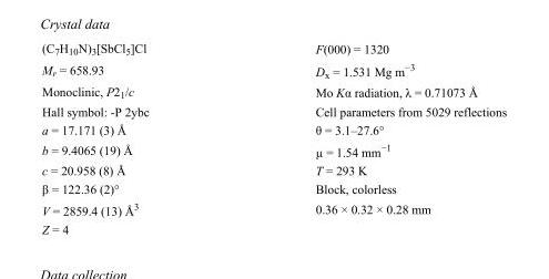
<table><tbody><tr><td>(C<sub>7</sub>H<sub>10</sub>N)<sub>3</sub>[SbCl<sub>5</sub>]Cl</td><td>F(000) = 1320</td></tr><tr><td>M<sub>r</sub> = 658.93</td><td>D<sub>x</sub> = 1.531 Mg m<sup>−3</sup></td></tr><tr><td>Monoclinic, P2<sub>1</sub>/c</td><td>Mo Kα radiation, λ = 0.71073 Å</td></tr><tr><td>Hall symbol: -P 2ybc</td><td>Cell parameters from 5029 reflections</td></tr><tr><td>a = 17.171 (3) Å</td><td>θ = 3.1–27.6°</td></tr><tr><td>b = 9.4065 (19) Å</td><td>µ = 1.54 mm<sup>−1</sup></td></tr><tr><td>c = 20.958 (8) Å</td><td>T = 293 K</td></tr><tr><td>β = 122.36 (2)°</td><td>Block, colorless</td></tr><tr><td>V = 2859.4 (13) Å<sup>3</sup></td><td>0.36 × 0.32 × 0.28 mm</td></tr><tr><td>Z = 4</td><td></td></tr></tbody></table>